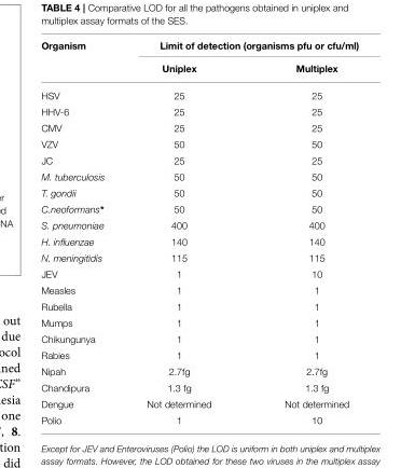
<table><thead><tr><td rowspan="2">Organism</td><td colspan="2">Limit of detection (organisms pfu or cfu/ml)</td></tr><tr><td>Uniplex</td><td>Multiplex</td></tr></thead><tbody><tr><td>HSV</td><td>25</td><td>25</td></tr><tr><td>HHV-6</td><td>25</td><td>25</td></tr><tr><td>CMV</td><td>25</td><td>25</td></tr><tr><td>VZV</td><td>50</td><td>50</td></tr><tr><td>JC</td><td>25</td><td>25</td></tr><tr><td>M. tuberculosis</td><td>50</td><td>50</td></tr><tr><td>T. gondii</td><td>50</td><td>50</td></tr><tr><td>C.neoformans*</td><td>50</td><td>50</td></tr><tr><td>S. pneumoniae</td><td>400</td><td>400</td></tr><tr><td>H. influenzae</td><td>140</td><td>140</td></tr><tr><td>N. meningitidis</td><td>115</td><td>115</td></tr><tr><td>JEV</td><td>1</td><td>10</td></tr><tr><td>Measles</td><td>1</td><td>1</td></tr><tr><td>Rubella</td><td>1</td><td>1</td></tr><tr><td>Mumps</td><td>1</td><td>1</td></tr><tr><td>Chikungunya</td><td>1</td><td>1</td></tr><tr><td>Rabies</td><td>1</td><td>1</td></tr><tr><td>Nipah</td><td>2.7fg</td><td>2.7fg</td></tr><tr><td>Chandipura</td><td>1.3 fg</td><td>1.3 fg</td></tr><tr><td>Dengue</td><td>Not determined</td><td>Not determined</td></tr><tr><td>Polio</td><td>1</td><td>10</td></tr></tbody></table>